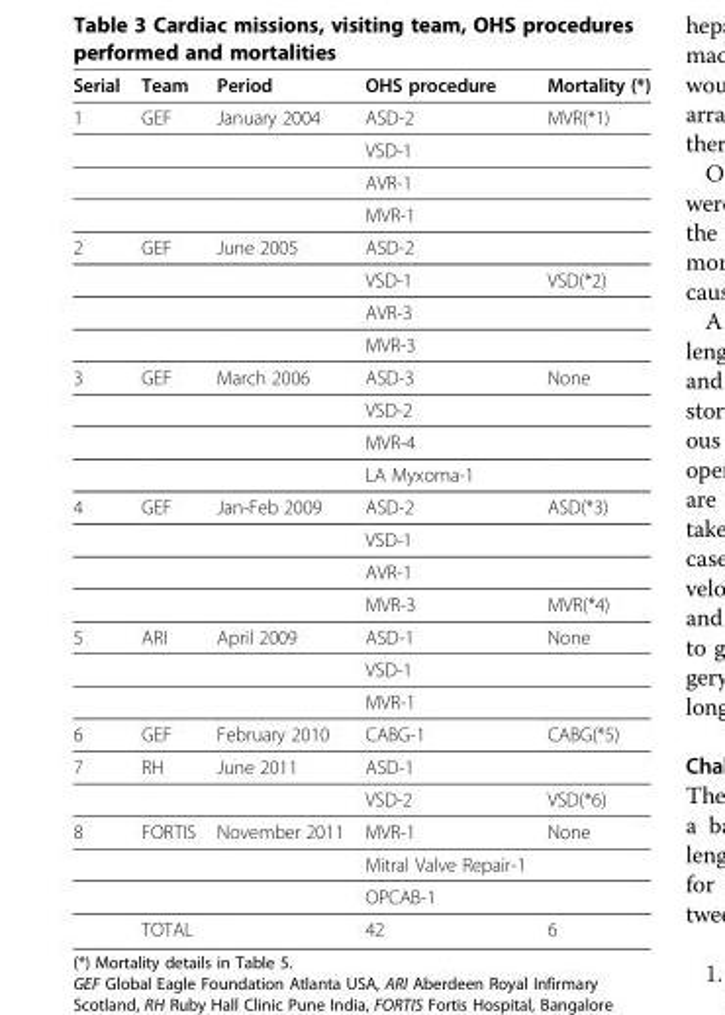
<table><thead><tr><td>Serial</td><td>Team</td><td>Period</td><td>OHS procedure</td><td>Mortality (*)</td></tr></thead><tbody><tr><td rowspan="4">1</td><td>GEF</td><td>January 2004</td><td>ASD-2</td><td>MVR(*1)</td></tr><tr><td></td><td></td><td>VSD-1</td><td></td></tr><tr><td></td><td></td><td>AVR-1</td><td></td></tr><tr><td></td><td></td><td>MVR-1</td><td></td></tr><tr><td rowspan="4">2</td><td>GEF</td><td>June 2005</td><td>ASD-2</td><td></td></tr><tr><td></td><td></td><td>VSD-1</td><td>VSD(*2)</td></tr><tr><td></td><td></td><td>AVR-3</td><td></td></tr><tr><td></td><td></td><td>MVR-3</td><td></td></tr><tr><td rowspan="4">3</td><td>GEF</td><td>March 2006</td><td>ASD-3</td><td>None</td></tr><tr><td></td><td></td><td>VSD-2</td><td></td></tr><tr><td></td><td></td><td>MVR-4</td><td></td></tr><tr><td></td><td></td><td>LA Myxoma-1</td><td></td></tr><tr><td rowspan="4">4</td><td>GEF</td><td>Jan-Feb 2009</td><td>ASD-2</td><td>ASD(*3)</td></tr><tr><td></td><td></td><td>VSD-1</td><td></td></tr><tr><td></td><td></td><td>AVR-1</td><td></td></tr><tr><td></td><td></td><td>MVR-3</td><td>MVR(*4)</td></tr><tr><td rowspan="3">5</td><td>ARI</td><td>April 2009</td><td>ASD-1</td><td>None</td></tr><tr><td></td><td></td><td>VSD-1</td><td></td></tr><tr><td></td><td></td><td>MVR-1</td><td></td></tr><tr><td>6</td><td>GEF</td><td>February 2010</td><td>CABG-1</td><td>CABG(*5)</td></tr><tr><td rowspan="2">7</td><td>RH</td><td>June 2011</td><td>ASD-1</td><td></td></tr><tr><td></td><td></td><td>VSD-2</td><td>VSD(*6)</td></tr><tr><td rowspan="4">8</td><td>FORTIS</td><td>November 2011</td><td>MVR-1</td><td>None</td></tr><tr><td></td><td></td><td>Mitral Valve Repair-1</td><td></td></tr><tr><td></td><td></td><td>OPCAB-1</td><td></td></tr><tr><td>TOTAL</td><td></td><td>42</td><td>6</td></tr></tbody></table>